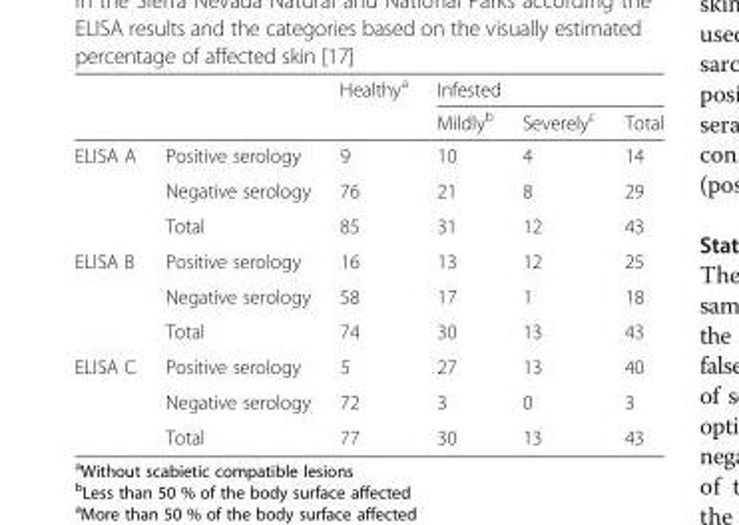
<table><thead><tr><td rowspan="2"></td><td rowspan="2"></td><td rowspan="2">Healthy<sup>a</sup></td><td colspan="3">Infested</td></tr><tr><td>Mildly<sup>b</sup></td><td>Severely<sup>c</sup></td><td>Total</td></tr></thead><tbody><tr><td rowspan="3">ELISA A</td><td>Positive serology</td><td>9</td><td>10</td><td>4</td><td>14</td></tr><tr><td>Negative serology</td><td>76</td><td>21</td><td>8</td><td>29</td></tr><tr><td>Total</td><td>85</td><td>31</td><td>12</td><td>43</td></tr><tr><td rowspan="3">ELISA B</td><td>Positive serology</td><td>16</td><td>13</td><td>12</td><td>25</td></tr><tr><td>Negative serology</td><td>58</td><td>17</td><td>1</td><td>18</td></tr><tr><td>Total</td><td>74</td><td>30</td><td>13</td><td>43</td></tr><tr><td rowspan="3">ELISA C</td><td>Positive serology</td><td>5</td><td>27</td><td>13</td><td>40</td></tr><tr><td>Negative serology</td><td>72</td><td>3</td><td>0</td><td>3</td></tr><tr><td>Total</td><td>77</td><td>30</td><td>13</td><td>43</td></tr></tbody></table>